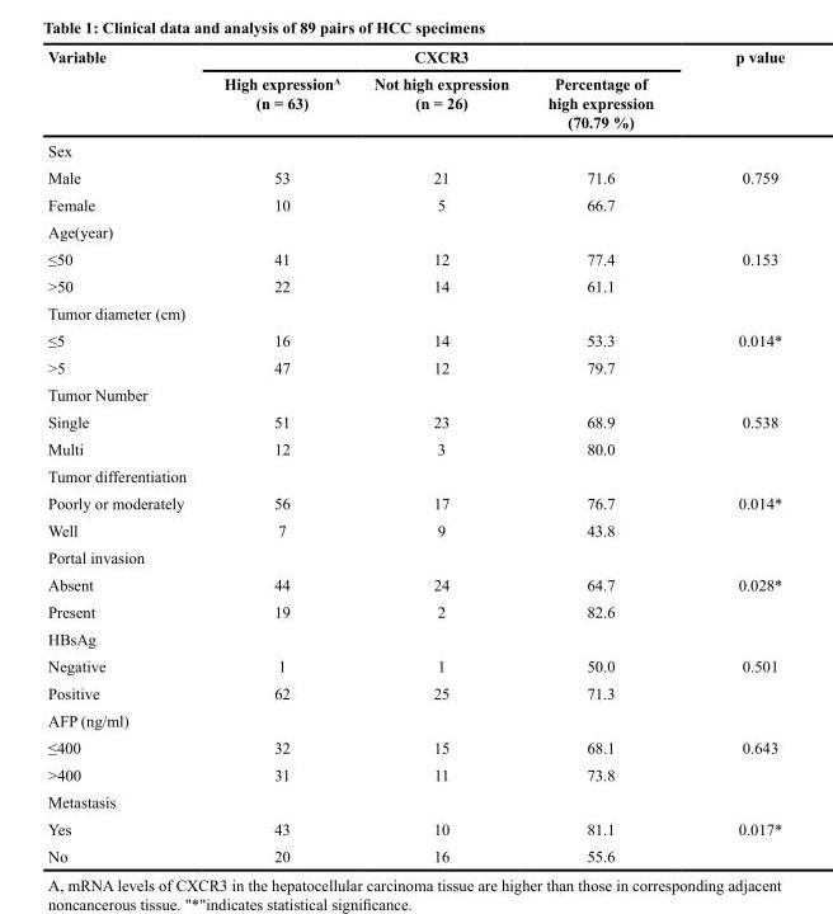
<table><thead><tr><td rowspan="2">Variable</td><td colspan="3">CXCR3</td><td rowspan="2">p value</td></tr><tr><td>High expression<sup>A</sup> (n = 63)</td><td>Not high expression (n = 26)</td><td>Percentage of high expression (70.79 %)</td></tr></thead><tbody><tr><td colspan="5">Sex</td></tr><tr><td>Male</td><td>53</td><td>21</td><td>71.6</td><td>0.759</td></tr><tr><td>Female</td><td>10</td><td>5</td><td>66.7</td><td></td></tr><tr><td colspan="5">Age(year)</td></tr><tr><td>≤50</td><td>41</td><td>12</td><td>77.4</td><td>0.153</td></tr><tr><td>&gt;50</td><td>22</td><td>14</td><td>61.1</td><td></td></tr><tr><td colspan="5">Tumor diameter (cm)</td></tr><tr><td>≤5</td><td>16</td><td>14</td><td>53.3</td><td>0.014*</td></tr><tr><td>&gt;5</td><td>47</td><td>12</td><td>79.7</td><td></td></tr><tr><td colspan="5">Tumor Number</td></tr><tr><td>Single</td><td>51</td><td>23</td><td>68.9</td><td>0.538</td></tr><tr><td>Multi</td><td>12</td><td>3</td><td>80.0</td><td></td></tr><tr><td colspan="5">Tumor differentiation</td></tr><tr><td>Poorly or moderately</td><td>56</td><td>17</td><td>76.7</td><td>0.014*</td></tr><tr><td>Well</td><td>7</td><td>9</td><td>43.8</td><td></td></tr><tr><td colspan="5">Portal invasion</td></tr><tr><td>Absent</td><td>44</td><td>24</td><td>64.7</td><td>0.028*</td></tr><tr><td>Present</td><td>19</td><td>2</td><td>82.6</td><td></td></tr><tr><td colspan="5">HBsAg</td></tr><tr><td>Negative</td><td>1</td><td>1</td><td>50.0</td><td>0.501</td></tr><tr><td>Positive</td><td>62</td><td>25</td><td>71.3</td><td></td></tr><tr><td colspan="5">AFP (ng/ml)</td></tr><tr><td>≤400</td><td>32</td><td>15</td><td>68.1</td><td>0.643</td></tr><tr><td>&gt;400</td><td>31</td><td>11</td><td>73.8</td><td></td></tr><tr><td colspan="5">Metastasis</td></tr><tr><td>Yes</td><td>43</td><td>10</td><td>81.1</td><td>0.017*</td></tr><tr><td>No</td><td>20</td><td>16</td><td>55.6</td><td></td></tr></tbody></table>